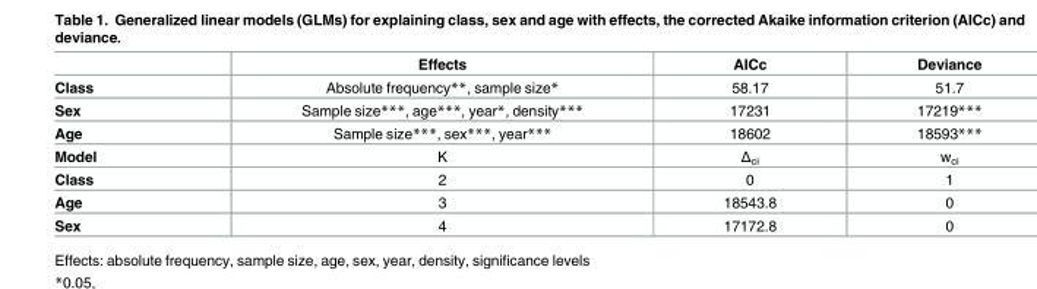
<table><thead><tr><td></td><td>Effects</td><td>AICc</td><td>Deviance</td></tr></thead><tbody><tr><td>Class</td><td>Absolute frequency**, sample size*</td><td>58.17</td><td>51.7</td></tr><tr><td>Sex</td><td>Sample size***, age***, year*, density***</td><td>17231</td><td>17219***</td></tr><tr><td>Age</td><td>Sample size***, sex***, year***</td><td>18602</td><td>18593***</td></tr><tr><td>Model</td><td>K</td><td>Δ<sub>ci</sub></td><td>w<sub>ci</sub></td></tr><tr><td>Class</td><td>2</td><td>0</td><td>1</td></tr><tr><td>Age</td><td>3</td><td>18543.8</td><td>0</td></tr><tr><td>Sex</td><td>4</td><td>17172.8</td><td>0</td></tr></tbody></table>